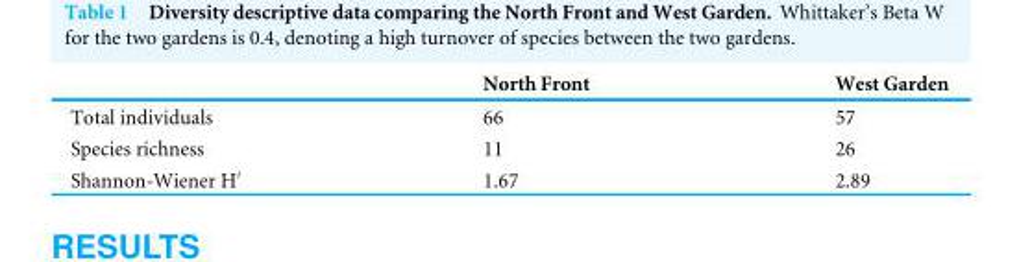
<table><thead><tr><td></td><td>North Front</td><td>West Garden</td></tr></thead><tbody><tr><td>Total individuals</td><td>66</td><td>57</td></tr><tr><td>Species richness</td><td>11</td><td>26</td></tr><tr><td>Shannon-Wiener H′</td><td>1.67</td><td>2.89</td></tr></tbody></table>